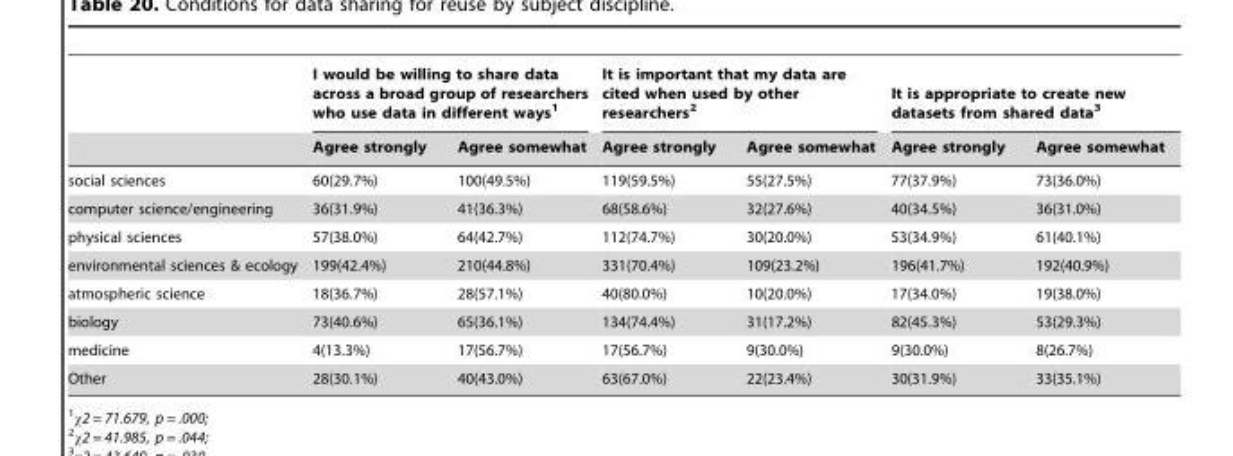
<table><thead><tr><td rowspan="2"></td><td colspan="2">I would be willing to share data across a broad group of researchers who use data in different ways<sup>1</sup></td><td colspan="2">It is important that my data are cited when used by other researchers<sup>2</sup></td><td colspan="2">It is appropriate to create new datasets from shared data<sup>3</sup></td></tr><tr><td>Agree strongly</td><td>Agree somewhat</td><td>Agree strongly</td><td>Agree somewhat</td><td>Agree strongly</td><td>Agree somewhat</td></tr></thead><tbody><tr><td>social sciences</td><td>60(29.7%)</td><td>100(49.5%)</td><td>119(59.5%)</td><td>55(27.5%)</td><td>77(37.9%)</td><td>73(36.0%)</td></tr><tr><td>computer science/engineering</td><td>36(31.9%)</td><td>41(36.3%)</td><td>68(58.6%)</td><td>32(27.6%)</td><td>40(34.5%)</td><td>36(31.0%)</td></tr><tr><td>physical sciences</td><td>57(38.0%)</td><td>64(42.7%)</td><td>112(74.7%)</td><td>30(20.0%)</td><td>53(34.9%)</td><td>61(40.1%)</td></tr><tr><td>environmental sciences &amp; ecology</td><td>199(42.4%)</td><td>210(44.8%)</td><td>331(70.4%)</td><td>109(23.2%)</td><td>196(41.7%)</td><td>192(40.9%)</td></tr><tr><td>atmospheric science</td><td>18(36.7%)</td><td>28(57.1%)</td><td>40(80.0%)</td><td>10(20.0%)</td><td>17(34.0%)</td><td>19(38.0%)</td></tr><tr><td>biology</td><td>73(40.6%)</td><td>65(36.1%)</td><td>134(74.4%)</td><td>31(17.2%)</td><td>82(45.3%)</td><td>53(29.3%)</td></tr><tr><td>medicine</td><td>4(13.3%)</td><td>17(56.7%)</td><td>17(56.7%)</td><td>9(30.0%)</td><td>9(30.0%)</td><td>8(26.7%)</td></tr><tr><td>Other</td><td>28(30.1%)</td><td>40(43.0%)</td><td>63(67.0%)</td><td>22(23.4%)</td><td>30(31.9%)</td><td>33(35.1%)</td></tr></tbody></table>